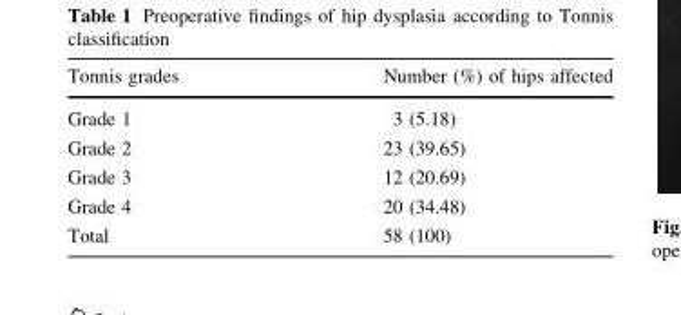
<table><thead><tr><td>Tonnis grades</td><td>Number (%) of hips affected</td></tr></thead><tbody><tr><td>Grade 1</td><td>3 (5.18)</td></tr><tr><td>Grade 2</td><td>23 (39.65)</td></tr><tr><td>Grade 3</td><td>12 (20.69)</td></tr><tr><td>Grade 4</td><td>20 (34.48)</td></tr><tr><td>Total</td><td>58 (100)</td></tr></tbody></table>